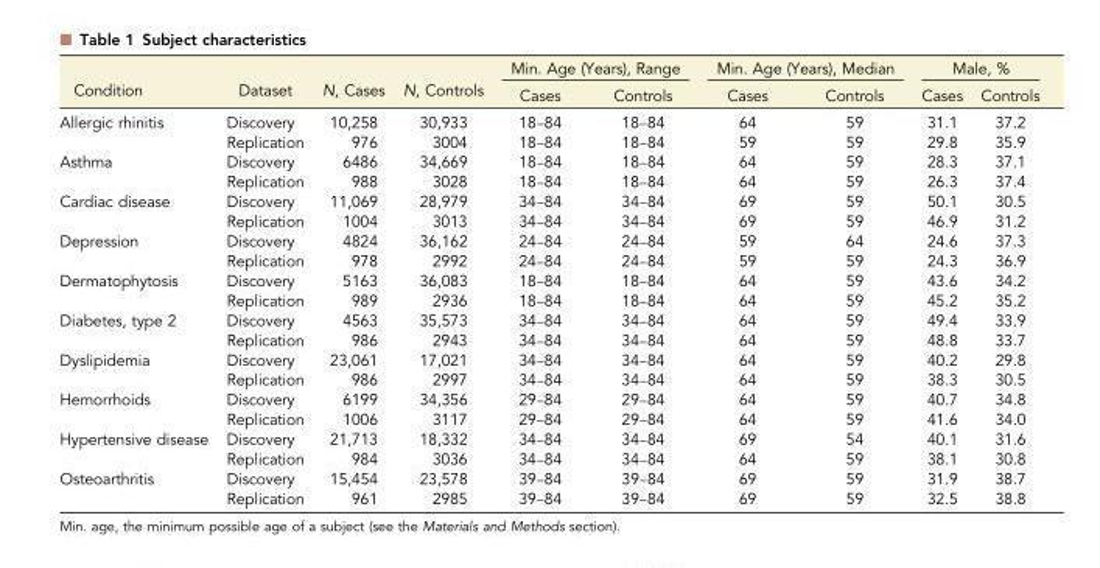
<table><thead><tr><td rowspan="2">Condition</td><td rowspan="2">Dataset</td><td rowspan="2">N, Cases</td><td rowspan="2">N, Controls</td><td colspan="2">Min. Age (Years), Range</td><td colspan="2">Min. Age (Years), Median</td><td colspan="2">Male, %</td></tr><tr><td>Cases</td><td>Controls</td><td>Cases</td><td>Controls</td><td>Cases</td><td>Controls</td></tr></thead><tbody><tr><td rowspan="2">Allergic rhinitis</td><td>Discovery</td><td>10,258</td><td>30,933</td><td>18–84</td><td>18–84</td><td>64</td><td>59</td><td>31.1</td><td>37.2</td></tr><tr><td>Replication</td><td>976</td><td>3004</td><td>18–84</td><td>18–84</td><td>59</td><td>59</td><td>29.8</td><td>35.9</td></tr><tr><td rowspan="2">Asthma</td><td>Discovery</td><td>6486</td><td>34,669</td><td>18–84</td><td>18–84</td><td>64</td><td>59</td><td>28.3</td><td>37.1</td></tr><tr><td>Replication</td><td>988</td><td>3028</td><td>18–84</td><td>18–84</td><td>64</td><td>59</td><td>26.3</td><td>37.4</td></tr><tr><td rowspan="2">Cardiac disease</td><td>Discovery</td><td>11,069</td><td>28,979</td><td>34–84</td><td>34–84</td><td>69</td><td>59</td><td>50.1</td><td>30.5</td></tr><tr><td>Replication</td><td>1004</td><td>3013</td><td>34–84</td><td>34–84</td><td>69</td><td>59</td><td>46.9</td><td>31.2</td></tr><tr><td rowspan="2">Depression</td><td>Discovery</td><td>4824</td><td>36,162</td><td>24–84</td><td>24–84</td><td>59</td><td>64</td><td>24.6</td><td>37.3</td></tr><tr><td>Replication</td><td>978</td><td>2992</td><td>24–84</td><td>24–84</td><td>59</td><td>59</td><td>24.3</td><td>36.9</td></tr><tr><td rowspan="2">Dermatophytosis</td><td>Discovery</td><td>5163</td><td>36,083</td><td>18–84</td><td>18–84</td><td>64</td><td>59</td><td>43.6</td><td>34.2</td></tr><tr><td>Replication</td><td>989</td><td>2936</td><td>18–84</td><td>18–84</td><td>64</td><td>59</td><td>45.2</td><td>35.2</td></tr><tr><td rowspan="2">Diabetes, type 2</td><td>Discovery</td><td>4563</td><td>35,573</td><td>34–84</td><td>34–84</td><td>64</td><td>59</td><td>49.4</td><td>33.9</td></tr><tr><td>Replication</td><td>986</td><td>2943</td><td>34–84</td><td>34–84</td><td>64</td><td>59</td><td>48.8</td><td>33.7</td></tr><tr><td rowspan="2">Dyslipidemia</td><td>Discovery</td><td>23,061</td><td>17,021</td><td>34–84</td><td>34–84</td><td>64</td><td>59</td><td>40.2</td><td>29.8</td></tr><tr><td>Replication</td><td>986</td><td>2997</td><td>34–84</td><td>34–84</td><td>64</td><td>59</td><td>38.3</td><td>30.5</td></tr><tr><td rowspan="2">Hemorrhoids</td><td>Discovery</td><td>6199</td><td>34,356</td><td>29–84</td><td>29–84</td><td>64</td><td>59</td><td>40.7</td><td>34.8</td></tr><tr><td>Replication</td><td>1006</td><td>3117</td><td>29–84</td><td>29–84</td><td>64</td><td>59</td><td>41.6</td><td>34.0</td></tr><tr><td rowspan="2">Hypertensive disease</td><td>Discovery</td><td>21,713</td><td>18,332</td><td>34–84</td><td>34–84</td><td>69</td><td>54</td><td>40.1</td><td>31.6</td></tr><tr><td>Replication</td><td>984</td><td>3036</td><td>34–84</td><td>34–84</td><td>64</td><td>59</td><td>38.1</td><td>30.8</td></tr><tr><td rowspan="2">Osteoarthritis</td><td>Discovery</td><td>15,454</td><td>23,578</td><td>39–84</td><td>39–84</td><td>69</td><td>59</td><td>31.9</td><td>38.7</td></tr><tr><td>Replication</td><td>961</td><td>2985</td><td>39–84</td><td>39–84</td><td>69</td><td>59</td><td>32.5</td><td>38.8</td></tr></tbody></table>